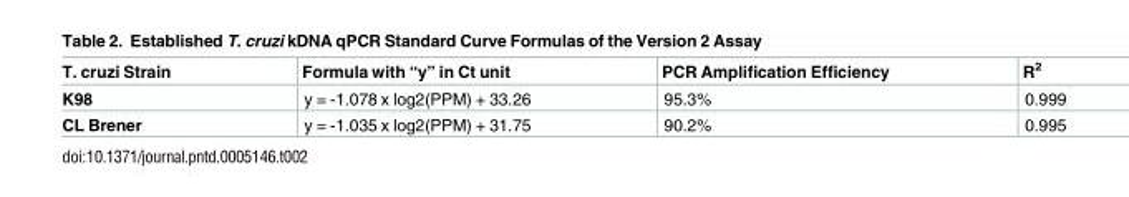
<table><thead><tr><td>T. cruzi Strain</td><td>Formula with “y” in Ct unit</td><td>PCR Amplification Efficiency</td><td>R<sup>2</sup></td></tr></thead><tbody><tr><td>K98</td><td>y = -1.078 x log2(PPM) + 33.26</td><td>95.3%</td><td>0.999</td></tr><tr><td>CL Brener</td><td>y = -1.035 x log2(PPM) + 31.75</td><td>90.2%</td><td>0.995</td></tr></tbody></table>